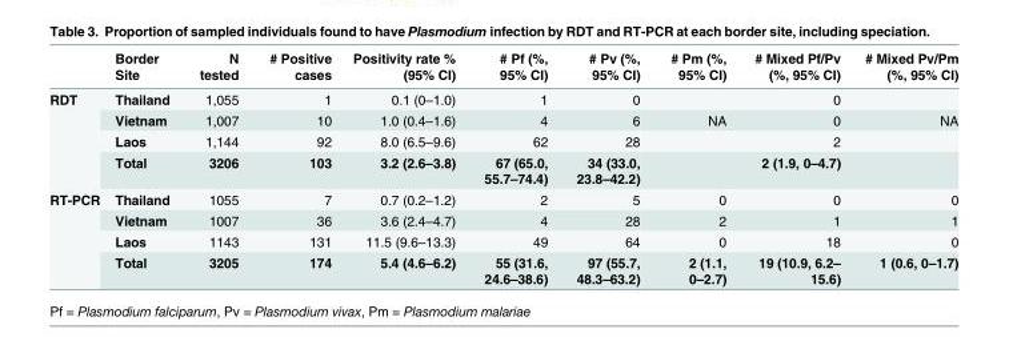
<table><thead><tr><td></td><td>Border Site</td><td>N tested</td><td># Positive cases</td><td>Positivity rate % (95% CI)</td><td># Pf (%, 95% CI)</td><td># Pv (%, 95% CI)</td><td># Pm (%, 95% CI)</td><td># Mixed Pf/Pv (%, 95% CI)</td><td># Mixed Pv/Pm (%, 95% CI)</td></tr></thead><tbody><tr><td rowspan="4">RDT</td><td>Thailand</td><td>1,055</td><td>1</td><td>0.1 (0–1.0)</td><td>1</td><td>0</td><td></td><td>0</td><td></td></tr><tr><td>Vietnam</td><td>1,007</td><td>10</td><td>1.0 (0.4–1.6)</td><td>4</td><td>6</td><td>NA</td><td>0</td><td>NA</td></tr><tr><td>Laos</td><td>1,144</td><td>92</td><td>8.0 (6.5–9.6)</td><td>62</td><td>28</td><td></td><td>2</td><td></td></tr><tr><td>Total</td><td>3206</td><td>103</td><td>3.2 (2.6–3.8)</td><td>67 (65.0, 55.7–74.4)</td><td>34 (33.0, 23.8–42.2)</td><td></td><td>2 (1.9, 0–4.7)</td><td></td></tr><tr><td rowspan="4">RT-PCR</td><td>Thailand</td><td>1055</td><td>7</td><td>0.7 (0.2–1.2)</td><td>2</td><td>5</td><td>0</td><td>0</td><td>0</td></tr><tr><td>Vietnam</td><td>1007</td><td>36</td><td>3.6 (2.4–4.7)</td><td>4</td><td>28</td><td>2</td><td>1</td><td>1</td></tr><tr><td>Laos</td><td>1143</td><td>131</td><td>11.5 (9.6–13.3)</td><td>49</td><td>64</td><td>0</td><td>18</td><td>0</td></tr><tr><td>Total</td><td>3205</td><td>174</td><td>5.4 (4.6–6.2)</td><td>55 (31.6, 24.6–38.6)</td><td>97 (55.7, 48.3–63.2)</td><td>2 (1.1, 0–2.7)</td><td>19 (10.9, 6.2– 15.6)</td><td>1 (0.6, 0–1.7)</td></tr></tbody></table>